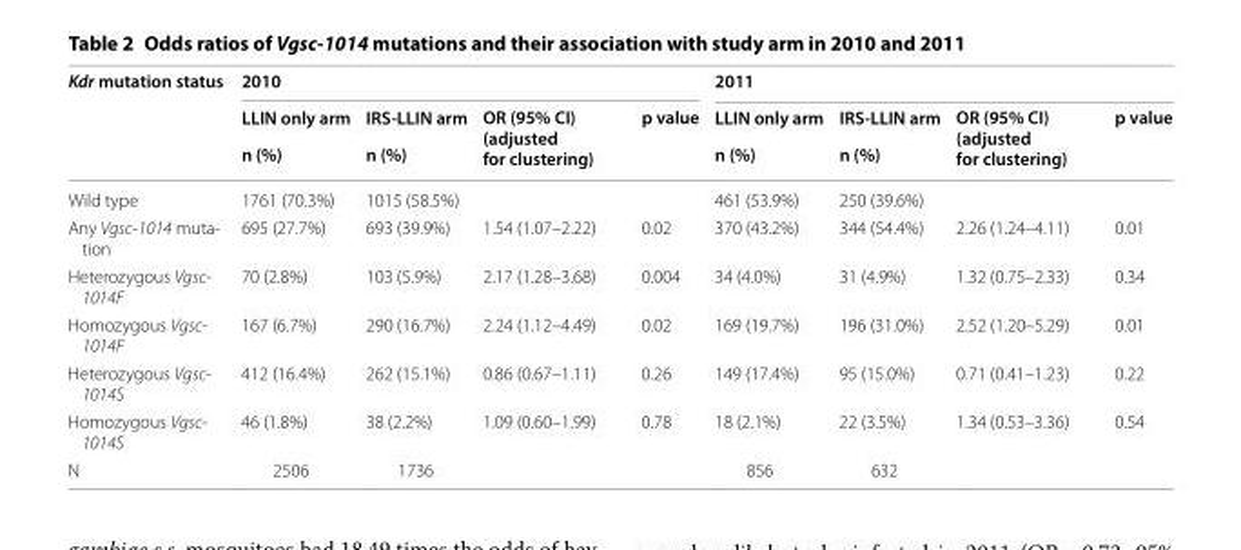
<table><thead><tr><td rowspan="3">Kdr mutation status</td><td colspan="4">2010</td><td colspan="4">2011</td></tr><tr><td rowspan="2">LLIN only arm n (%)</td><td rowspan="2">IRS-LLIN arm n (%)</td><td rowspan="2">OR (95% CI) (adjusted for clustering)</td><td rowspan="2">p value</td><td rowspan="2">LLIN only arm n (%)</td><td rowspan="2">IRS-LLIN arm n (%)</td><td rowspan="2">OR (95% CI) (adjusted for clustering)</td><td rowspan="2">p value</td></tr><tr></tr></thead><tbody><tr><td>Wild type</td><td>1761 (70.3%)</td><td>1015 (58.5%)</td><td></td><td></td><td>461 (53.9%)</td><td>250 (39.6%)</td><td></td><td></td></tr><tr><td>Any Vgsc‑1014 muta‑ tion</td><td>695 (27.7%)</td><td>693 (39.9%)</td><td>1.54 (1.07–2.22)</td><td>0.02</td><td>370 (43.2%)</td><td>344 (54.4%)</td><td>2.26 (1.24–4.11)</td><td>0.01</td></tr><tr><td>Heterozygous Vgsc‑ 1014F</td><td>70 (2.8%)</td><td>103 (5.9%)</td><td>2.17 (1.28–3.68)</td><td>0.004</td><td>34 (4.0%)</td><td>31 (4.9%)</td><td>1.32 (0.75–2.33)</td><td>0.34</td></tr><tr><td>Homozygous Vgsc‑ 1014F</td><td>167 (6.7%)</td><td>290 (16.7%)</td><td>2.24 (1.12–4.49)</td><td>0.02</td><td>169 (19.7%)</td><td>196 (31.0%)</td><td>2.52 (1.20–5.29)</td><td>0.01</td></tr><tr><td>Heterozygous Vgsc‑ 1014S</td><td>412 (16.4%)</td><td>262 (15.1%)</td><td>0.86 (0.67–1.11)</td><td>0.26</td><td>149 (17.4%)</td><td>95 (15.0%)</td><td>0.71 (0.41–1.23)</td><td>0.22</td></tr><tr><td>Homozygous Vgsc‑ 1014S</td><td>46 (1.8%)</td><td>38 (2.2%)</td><td>1.09 (0.60–1.99)</td><td>0.78</td><td>18 (2.1%)</td><td>22 (3.5%)</td><td>1.34 (0.53–3.36)</td><td>0.54</td></tr><tr><td>N</td><td>2506</td><td>1736</td><td></td><td></td><td>856</td><td>632</td><td></td><td></td></tr></tbody></table>